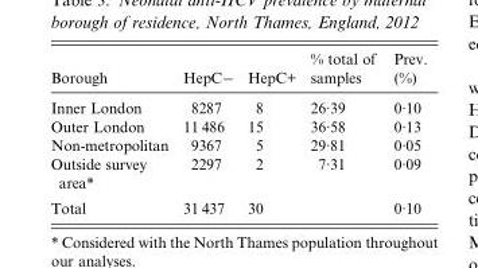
<table><thead><tr><td>Borough</td><td>HepC−</td><td>HepC+</td><td>% total of samples</td><td>Prev. (%)</td></tr></thead><tbody><tr><td>Inner London</td><td>8287</td><td>8</td><td>26·39</td><td>0·10</td></tr><tr><td>Outer London</td><td>11 486</td><td>15</td><td>36·58</td><td>0·13</td></tr><tr><td>Non-metropolitan</td><td>9367</td><td>5</td><td>29·81</td><td>0·05</td></tr><tr><td>Outside survey area*</td><td>2297</td><td>2</td><td>7·31</td><td>0·09</td></tr><tr><td>Total</td><td>31 437</td><td>30</td><td></td><td>0·10</td></tr></tbody></table>